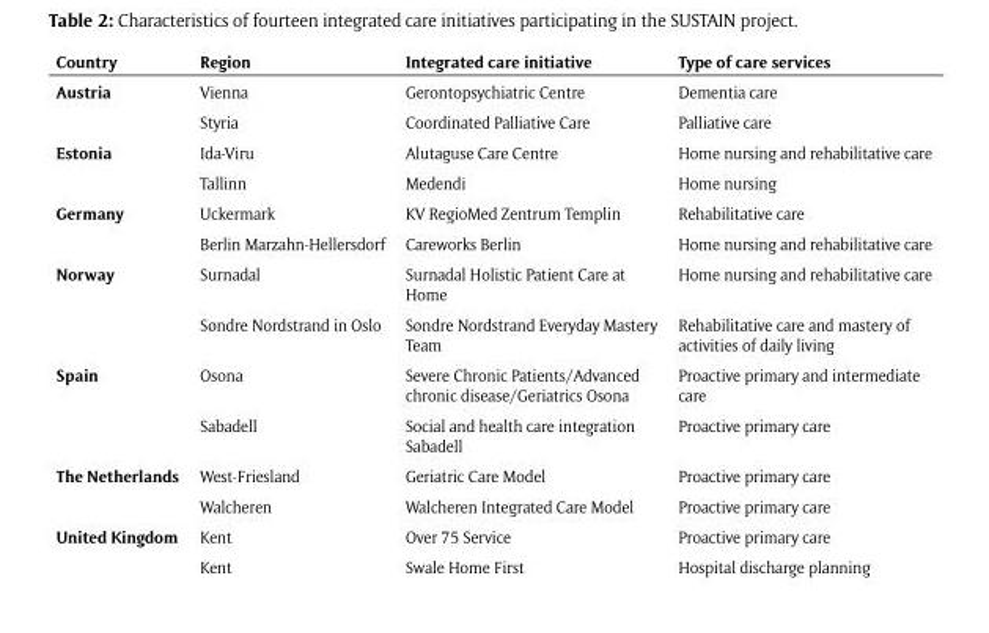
<table><thead><tr><td>Country</td><td>Region</td><td>Integrated care initiative</td><td>Type of care services</td></tr></thead><tbody><tr><td rowspan="2">Austria</td><td>Vienna</td><td>Gerontopsychiatric Centre</td><td>Dementia care</td></tr><tr><td>Styria</td><td>Coordinated Palliative Care</td><td>Palliative care</td></tr><tr><td rowspan="2">Estonia</td><td>Ida-Viru</td><td>Alutaguse Care Centre</td><td>Home nursing and rehabilitative care</td></tr><tr><td>Tallinn</td><td>Medendi</td><td>Home nursing</td></tr><tr><td rowspan="2">Germany</td><td>Uckermark</td><td>KV RegioMed Zentrum Templin</td><td>Rehabilitative care</td></tr><tr><td>Berlin Marzahn-Hellersdorf</td><td>Careworks Berlin</td><td>Home nursing and rehabilitative care</td></tr><tr><td rowspan="2">Norway</td><td>Surnadal</td><td>Surnadal Holistic Patient Care at Home</td><td>Home nursing and rehabilitative care</td></tr><tr><td>Søndre Nordstrand in Oslo</td><td>Søndre Nordstrand Everyday Mastery Team</td><td>Rehabilitative care and mastery of activities of daily living</td></tr><tr><td rowspan="2">Spain</td><td>Osona</td><td>Severe Chronic Patients/Advanced chronic disease/Geriatrics Osona</td><td>Proactive primary and intermediate care</td></tr><tr><td>Sabadell</td><td>Social and health care integration Sabadell</td><td>Proactive primary care</td></tr><tr><td rowspan="2">The Netherlands</td><td>West-Friesland</td><td>Geriatric Care Model</td><td>Proactive primary care</td></tr><tr><td>Walcheren</td><td>Walcheren Integrated Care Model</td><td>Proactive primary care</td></tr><tr><td rowspan="2">United Kingdom</td><td>Kent</td><td>Over 75 Service</td><td>Proactive primary care</td></tr><tr><td>Kent</td><td>Swale Home First</td><td>Hospital discharge planning</td></tr></tbody></table>